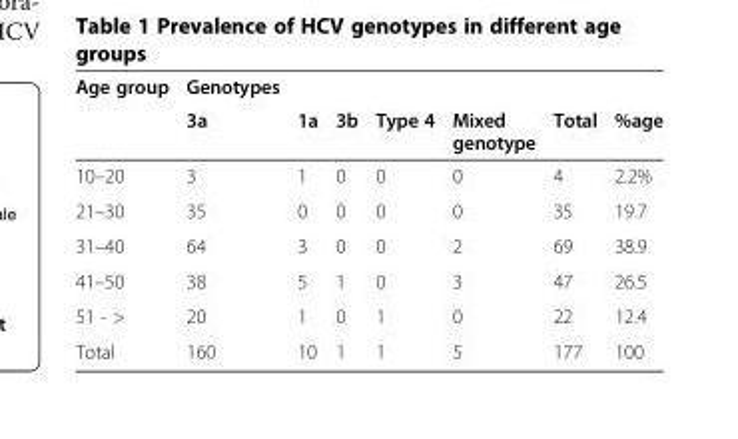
<table><thead><tr><td rowspan="2">Age group</td><td rowspan="2">Genotypes 3a</td><td rowspan="2">1a</td><td rowspan="2">3b</td><td rowspan="2">Type 4</td><td rowspan="2">Mixed genotype</td><td rowspan="2">Total</td><td rowspan="2">%age</td></tr><tr></tr></thead><tbody><tr><td>10–20</td><td>3</td><td>1</td><td>0</td><td>0</td><td>0</td><td>4</td><td>2.2%</td></tr><tr><td>21–30</td><td>35</td><td>0</td><td>0</td><td>0</td><td>0</td><td>35</td><td>19.7</td></tr><tr><td>31–40</td><td>64</td><td>3</td><td>0</td><td>0</td><td>2</td><td>69</td><td>38.9</td></tr><tr><td>41–50</td><td>38</td><td>5</td><td>1</td><td>0</td><td>3</td><td>47</td><td>26.5</td></tr><tr><td>51 - &gt;</td><td>20</td><td>1</td><td>0</td><td>1</td><td>0</td><td>22</td><td>12.4</td></tr><tr><td>Total</td><td>160</td><td>10</td><td>1</td><td>1</td><td>5</td><td>177</td><td>100</td></tr></tbody></table>